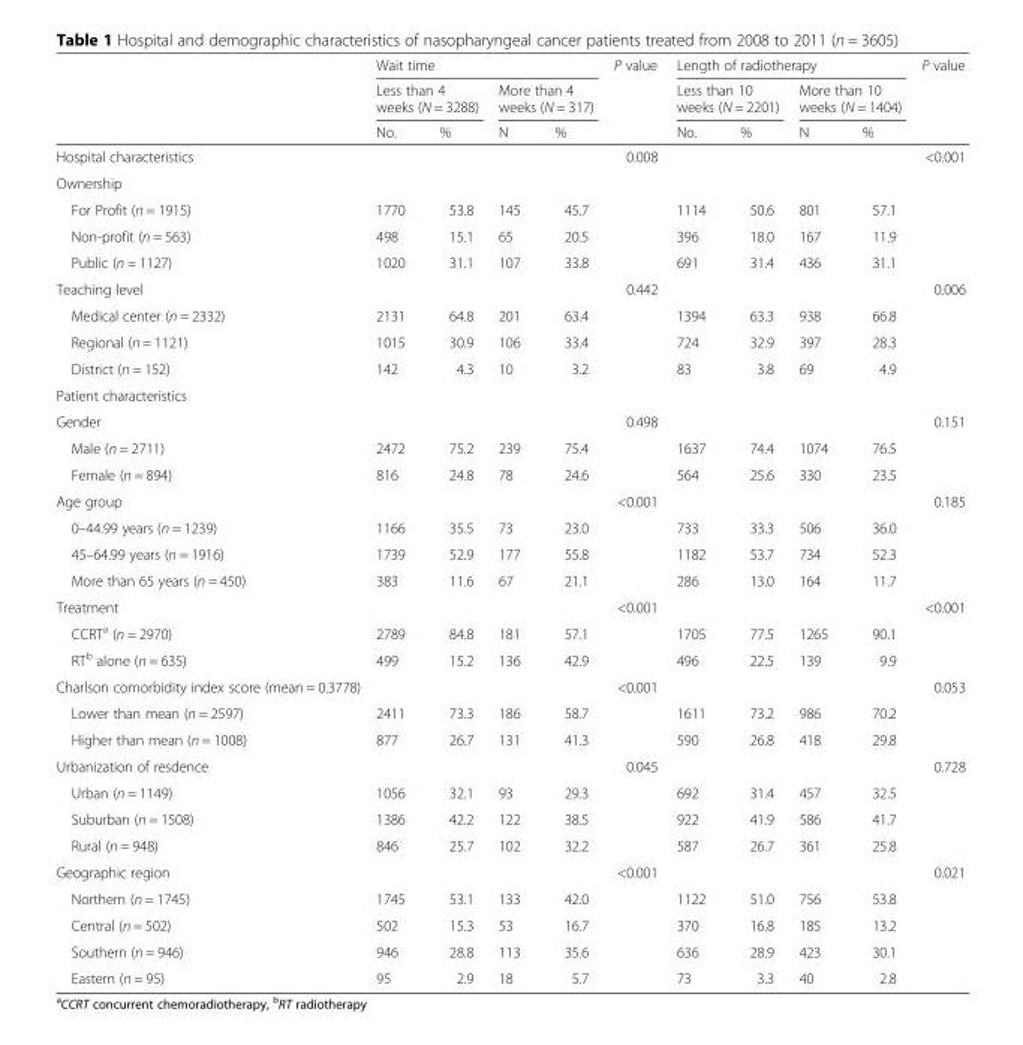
<table><thead><tr><td rowspan="3"></td><td colspan="4">Wait time</td><td rowspan="3">P value</td><td colspan="4">Length of radiotherapy</td><td rowspan="3">P value</td></tr><tr><td colspan="2">Less than 4 weeks (N = 3288)</td><td colspan="2">More than 4 weeks (N = 317)</td><td colspan="2">Less than 10 weeks (N = 2201)</td><td colspan="2">More than 10 weeks (N = 1404)</td></tr><tr><td>No.</td><td>%</td><td>N</td><td>%</td><td>No.</td><td>%</td><td>N</td><td>%</td></tr></thead><tbody><tr><td>Hospital characteristics</td><td></td><td></td><td></td><td></td><td>0.008</td><td></td><td></td><td></td><td></td><td>&lt;0.001</td></tr><tr><td colspan="11">Ownership</td></tr><tr><td>For Profit (n = 1915)</td><td>1770</td><td>53.8</td><td>145</td><td>45.7</td><td></td><td>1114</td><td>50.6</td><td>801</td><td>57.1</td><td></td></tr><tr><td>Non-profit (n = 563)</td><td>498</td><td>15.1</td><td>65</td><td>20.5</td><td></td><td>396</td><td>18.0</td><td>167</td><td>11.9</td><td></td></tr><tr><td>Public (n = 1127)</td><td>1020</td><td>31.1</td><td>107</td><td>33.8</td><td></td><td>691</td><td>31.4</td><td>436</td><td>31.1</td><td></td></tr><tr><td>Teaching level</td><td></td><td></td><td></td><td></td><td>0.442</td><td></td><td></td><td></td><td></td><td>0.006</td></tr><tr><td>Medical center (n = 2332)</td><td>2131</td><td>64.8</td><td>201</td><td>63.4</td><td></td><td>1394</td><td>63.3</td><td>938</td><td>66.8</td><td></td></tr><tr><td>Regional (n = 1121)</td><td>1015</td><td>30.9</td><td>106</td><td>33.4</td><td></td><td>724</td><td>32.9</td><td>397</td><td>28.3</td><td></td></tr><tr><td>District (n = 152)</td><td>142</td><td>4.3</td><td>10</td><td>3.2</td><td></td><td>83</td><td>3.8</td><td>69</td><td>4.9</td><td></td></tr><tr><td colspan="11">Patient characteristics</td></tr><tr><td>Gender</td><td></td><td></td><td></td><td></td><td>0.498</td><td></td><td></td><td></td><td></td><td>0.151</td></tr><tr><td>Male (n = 2711)</td><td>2472</td><td>75.2</td><td>239</td><td>75.4</td><td></td><td>1637</td><td>74.4</td><td>1074</td><td>76.5</td><td></td></tr><tr><td>Female (n = 894)</td><td>816</td><td>24.8</td><td>78</td><td>24.6</td><td></td><td>564</td><td>25.6</td><td>330</td><td>23.5</td><td></td></tr><tr><td>Age group</td><td></td><td></td><td></td><td></td><td>&lt;0.001</td><td></td><td></td><td></td><td></td><td>0.185</td></tr><tr><td>0–44.99 years (n = 1239)</td><td>1166</td><td>35.5</td><td>73</td><td>23.0</td><td></td><td>733</td><td>33.3</td><td>506</td><td>36.0</td><td></td></tr><tr><td>45–64.99 years (n = 1916)</td><td>1739</td><td>52.9</td><td>177</td><td>55.8</td><td></td><td>1182</td><td>53.7</td><td>734</td><td>52.3</td><td></td></tr><tr><td>More than 65 years (n = 450)</td><td>383</td><td>11.6</td><td>67</td><td>21.1</td><td></td><td>286</td><td>13.0</td><td>164</td><td>11.7</td><td></td></tr><tr><td>Treatment</td><td></td><td></td><td></td><td></td><td>&lt;0.001</td><td></td><td></td><td></td><td></td><td>&lt;0.001</td></tr><tr><td>CCRT<sup>a</sup> (n = 2970)</td><td>2789</td><td>84.8</td><td>181</td><td>57.1</td><td></td><td>1705</td><td>77.5</td><td>1265</td><td>90.1</td><td></td></tr><tr><td>RT<sup>b</sup> alone (n = 635)</td><td>499</td><td>15.2</td><td>136</td><td>42.9</td><td></td><td>496</td><td>22.5</td><td>139</td><td>9.9</td><td></td></tr><tr><td>Charlson comorbidity index score (mean = 0.3778)</td><td></td><td></td><td></td><td></td><td>&lt;0.001</td><td></td><td></td><td></td><td></td><td>0.053</td></tr><tr><td>Lower than mean (n = 2597)</td><td>2411</td><td>73.3</td><td>186</td><td>58.7</td><td></td><td>1611</td><td>73.2</td><td>986</td><td>70.2</td><td></td></tr><tr><td>Higher than mean (n = 1008)</td><td>877</td><td>26.7</td><td>131</td><td>41.3</td><td></td><td>590</td><td>26.8</td><td>418</td><td>29.8</td><td></td></tr><tr><td>Urbanization of resdence</td><td></td><td></td><td></td><td></td><td>0.045</td><td></td><td></td><td></td><td></td><td>0.728</td></tr><tr><td>Urban (n = 1149)</td><td>1056</td><td>32.1</td><td>93</td><td>29.3</td><td></td><td>692</td><td>31.4</td><td>457</td><td>32.5</td><td></td></tr><tr><td>Suburban (n = 1508)</td><td>1386</td><td>42.2</td><td>122</td><td>38.5</td><td></td><td>922</td><td>41.9</td><td>586</td><td>41.7</td><td></td></tr><tr><td>Rural (n = 948)</td><td>846</td><td>25.7</td><td>102</td><td>32.2</td><td></td><td>587</td><td>26.7</td><td>361</td><td>25.8</td><td></td></tr><tr><td>Geographic region</td><td></td><td></td><td></td><td></td><td>&lt;0.001</td><td></td><td></td><td></td><td></td><td>0.021</td></tr><tr><td>Northern (n = 1745)</td><td>1745</td><td>53.1</td><td>133</td><td>42.0</td><td></td><td>1122</td><td>51.0</td><td>756</td><td>53.8</td><td></td></tr><tr><td>Central (n = 502)</td><td>502</td><td>15.3</td><td>53</td><td>16.7</td><td></td><td>370</td><td>16.8</td><td>185</td><td>13.2</td><td></td></tr><tr><td>Southern (n = 946)</td><td>946</td><td>28.8</td><td>113</td><td>35.6</td><td></td><td>636</td><td>28.9</td><td>423</td><td>30.1</td><td></td></tr><tr><td>Eastern (n = 95)</td><td>95</td><td>2.9</td><td>18</td><td>5.7</td><td></td><td>73</td><td>3.3</td><td>40</td><td>2.8</td><td></td></tr></tbody></table>